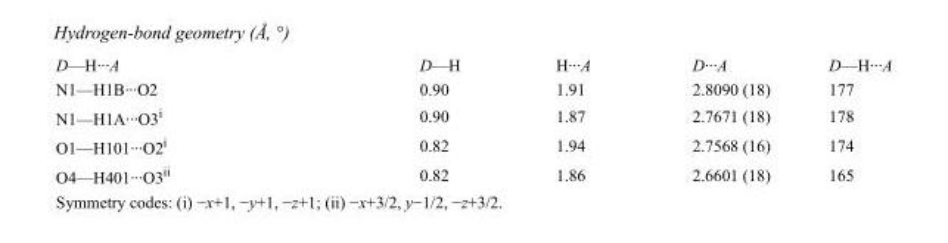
<table><tbody><tr><td>D—H···A</td><td>D—H</td><td>H···A</td><td>D···A</td><td>D—H···A</td></tr><tr><td>N1—H1B···O2</td><td>0.90</td><td>1.91</td><td>2.8090 (18)</td><td>177</td></tr><tr><td>N1—H1A···O3<sup>i</sup></td><td>0.90</td><td>1.87</td><td>2.7671 (18)</td><td>178</td></tr><tr><td>O1—H101···O2<sup>i</sup></td><td>0.82</td><td>1.94</td><td>2.7568 (16)</td><td>174</td></tr><tr><td>O4—H401···O3<sup>ii</sup></td><td>0.82</td><td>1.86</td><td>2.6601 (18)</td><td>165</td></tr></tbody></table>